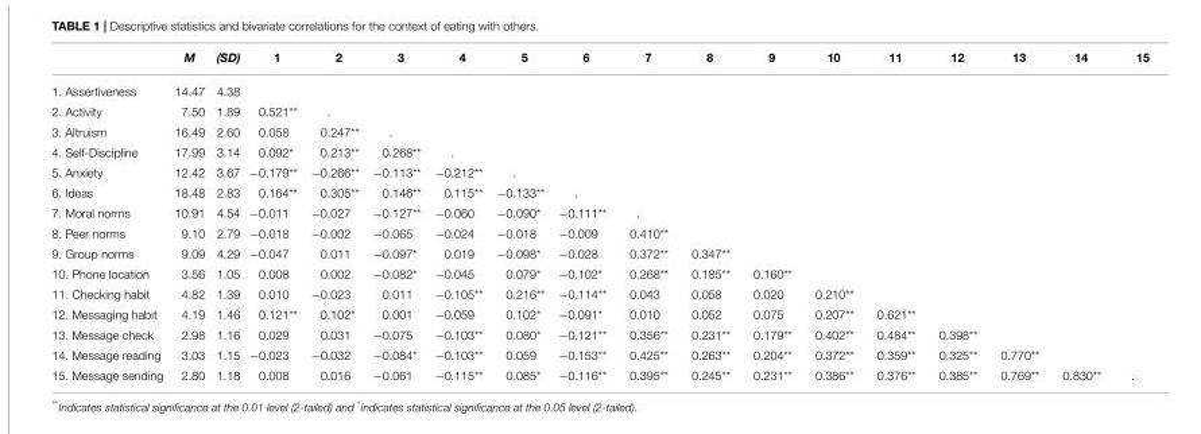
<table><thead><tr><td></td><td>M</td><td>(SD)</td><td>1</td><td>2</td><td>3</td><td>4</td><td>5</td><td>6</td><td>7</td><td>8</td><td>9</td><td>10</td><td>11</td><td>12</td><td>13</td><td>14</td><td>15</td></tr></thead><tbody><tr><td>1. Assertiveness</td><td>14.47</td><td>4.38</td><td></td><td></td><td></td><td></td><td></td><td></td><td></td><td></td><td></td><td></td><td></td><td></td><td></td><td></td><td></td></tr><tr><td>2. Activity</td><td>7.50</td><td>1.89</td><td>0.521**</td><td>.</td><td></td><td></td><td></td><td></td><td></td><td></td><td></td><td></td><td></td><td></td><td></td><td></td><td></td></tr><tr><td>3. Altruism</td><td>16.49</td><td>2.60</td><td>0.058</td><td>0.247**</td><td>.</td><td></td><td></td><td></td><td></td><td></td><td></td><td></td><td></td><td></td><td></td><td></td><td></td></tr><tr><td>4. Self-Discipline</td><td>17.99</td><td>3.14</td><td>0.092*</td><td>0.213**</td><td>0.268**</td><td>.</td><td></td><td></td><td></td><td></td><td></td><td></td><td></td><td></td><td></td><td></td><td></td></tr><tr><td>5. Anxiety</td><td>12.42</td><td>3.67</td><td>−0.179**</td><td>−0.266**</td><td>−0.113**</td><td>−0.212**</td><td>.</td><td></td><td></td><td></td><td></td><td></td><td></td><td></td><td></td><td></td><td></td></tr><tr><td>6. Ideas</td><td>18.48</td><td>2.83</td><td>0.164**</td><td>0.305**</td><td>0.146**</td><td>0.115**</td><td>−0.133**</td><td>.</td><td></td><td></td><td></td><td></td><td></td><td></td><td></td><td></td><td></td></tr><tr><td>7. Moral norms</td><td>10.91</td><td>4.54</td><td>−0.011</td><td>−0.027</td><td>−0.127**</td><td>−0.060</td><td>−0.090*</td><td>−0.111**</td><td>.</td><td></td><td></td><td></td><td></td><td></td><td></td><td></td><td></td></tr><tr><td>8. Peer norms</td><td>9.10</td><td>2.79</td><td>−0.018</td><td>−0.002</td><td>−0.065</td><td>−0.024</td><td>−0.018</td><td>−0.009</td><td>0.410**</td><td></td><td></td><td></td><td></td><td></td><td></td><td></td><td></td></tr><tr><td>9. Group norms</td><td>9.09</td><td>4.29</td><td>−0.047</td><td>0.011</td><td>−0.097*</td><td>0.019</td><td>−0.098*</td><td>−0.028</td><td>0.372**</td><td>0.347**</td><td></td><td></td><td></td><td></td><td></td><td></td><td></td></tr><tr><td>10. Phone location</td><td>3.56</td><td>1.05</td><td>0.008</td><td>0.002</td><td>−0.082*</td><td>−0.045</td><td>0.079*</td><td>−0.102*</td><td>0.268**</td><td>0.185**</td><td>0.160**</td><td></td><td></td><td></td><td></td><td></td><td></td></tr><tr><td>11. Checking habit</td><td>4.82</td><td>1.39</td><td>0.010</td><td>−0.023</td><td>0.011</td><td>−0.105**</td><td>0.216**</td><td>−0.114**</td><td>0.043</td><td>0.058</td><td>0.020</td><td>0.210**</td><td></td><td></td><td></td><td></td><td></td></tr><tr><td>12. Messaging habit</td><td>4.19</td><td>1.46</td><td>0.121**</td><td>0.102*</td><td>0.001</td><td>−0.059</td><td>0.102*</td><td>−0.091*</td><td>0.010</td><td>0.052</td><td>0.075</td><td>0.207**</td><td>0.621**</td><td></td><td></td><td></td><td></td></tr><tr><td>13. Message check</td><td>2.98</td><td>1.16</td><td>0.029</td><td>0.031</td><td>−0.075</td><td>−0.103**</td><td>0.080*</td><td>−0.121**</td><td>0.356**</td><td>0.231**</td><td>0.179**</td><td>0.402**</td><td>0.484**</td><td>0.398**</td><td></td><td></td><td></td></tr><tr><td>14. Message reading</td><td>3.03</td><td>1.15</td><td>−0.023</td><td>−0.032</td><td>−0.084*</td><td>−0.103**</td><td>0.059</td><td>−0.153**</td><td>0.425**</td><td>0.263**</td><td>0.204**</td><td>0.372**</td><td>0.359**</td><td>0.325**</td><td>0.770**</td><td></td><td></td></tr><tr><td>15. Message sending</td><td>2.80</td><td>1.18</td><td>0.008</td><td>0.016</td><td>−0.061</td><td>−0.115**</td><td>0.085*</td><td>−0.116**</td><td>0.395**</td><td>0.245**</td><td>0.231**</td><td>0.386**</td><td>0.376**</td><td>0.385**</td><td>0.769**</td><td>0.830**</td><td>.</td></tr></tbody></table>